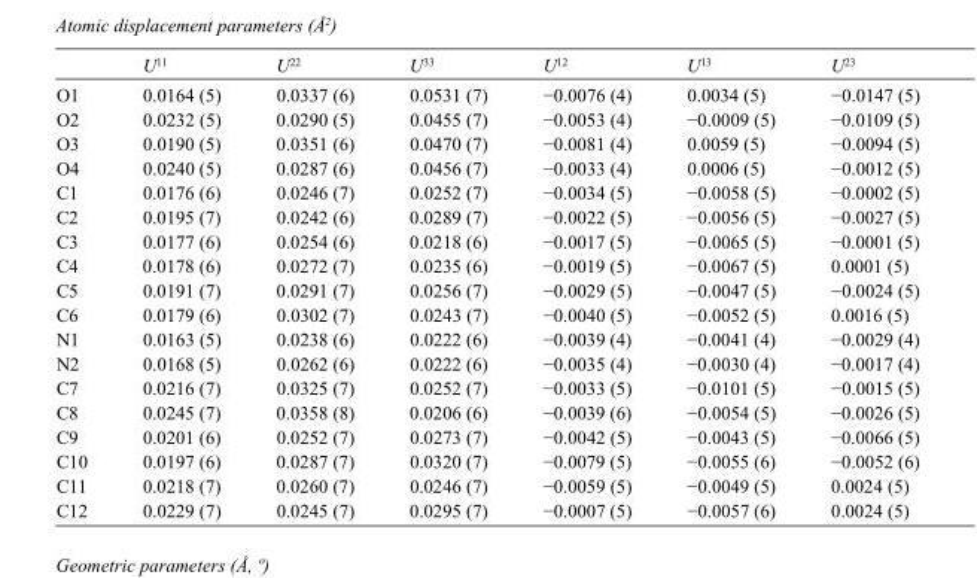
<table><thead><tr><td></td><td>U<sup>11</sup></td><td>U<sup>22</sup></td><td>U<sup>33</sup></td><td>U<sup>12</sup></td><td>U<sup>13</sup></td><td>U<sup>23</sup></td></tr></thead><tbody><tr><td>O1</td><td>0.0164 (5)</td><td>0.0337 (6)</td><td>0.0531 (7)</td><td>−0.0076 (4)</td><td>0.0034 (5)</td><td>−0.0147 (5)</td></tr><tr><td>O2</td><td>0.0232 (5)</td><td>0.0290 (5)</td><td>0.0455 (7)</td><td>−0.0053 (4)</td><td>−0.0009 (5)</td><td>−0.0109 (5)</td></tr><tr><td>O3</td><td>0.0190 (5)</td><td>0.0351 (6)</td><td>0.0470 (7)</td><td>−0.0081 (4)</td><td>0.0059 (5)</td><td>−0.0094 (5)</td></tr><tr><td>O4</td><td>0.0240 (5)</td><td>0.0287 (6)</td><td>0.0456 (7)</td><td>−0.0033 (4)</td><td>0.0006 (5)</td><td>−0.0012 (5)</td></tr><tr><td>C1</td><td>0.0176 (6)</td><td>0.0246 (7)</td><td>0.0252 (7)</td><td>−0.0034 (5)</td><td>−0.0058 (5)</td><td>−0.0002 (5)</td></tr><tr><td>C2</td><td>0.0195 (7)</td><td>0.0242 (6)</td><td>0.0289 (7)</td><td>−0.0022 (5)</td><td>−0.0056 (5)</td><td>−0.0027 (5)</td></tr><tr><td>C3</td><td>0.0177 (6)</td><td>0.0254 (6)</td><td>0.0218 (6)</td><td>−0.0017 (5)</td><td>−0.0065 (5)</td><td>−0.0001 (5)</td></tr><tr><td>C4</td><td>0.0178 (6)</td><td>0.0272 (7)</td><td>0.0235 (6)</td><td>−0.0019 (5)</td><td>−0.0067 (5)</td><td>0.0001 (5)</td></tr><tr><td>C5</td><td>0.0191 (7)</td><td>0.0291 (7)</td><td>0.0256 (7)</td><td>−0.0029 (5)</td><td>−0.0047 (5)</td><td>−0.0024 (5)</td></tr><tr><td>C6</td><td>0.0179 (6)</td><td>0.0302 (7)</td><td>0.0243 (7)</td><td>−0.0040 (5)</td><td>−0.0052 (5)</td><td>0.0016 (5)</td></tr><tr><td>N1</td><td>0.0163 (5)</td><td>0.0238 (6)</td><td>0.0222 (6)</td><td>−0.0039 (4)</td><td>−0.0041 (4)</td><td>−0.0029 (4)</td></tr><tr><td>N2</td><td>0.0168 (5)</td><td>0.0262 (6)</td><td>0.0222 (6)</td><td>−0.0035 (4)</td><td>−0.0030 (4)</td><td>−0.0017 (4)</td></tr><tr><td>C7</td><td>0.0216 (7)</td><td>0.0325 (7)</td><td>0.0252 (7)</td><td>−0.0033 (5)</td><td>−0.0101 (5)</td><td>−0.0015 (5)</td></tr><tr><td>C8</td><td>0.0245 (7)</td><td>0.0358 (8)</td><td>0.0206 (6)</td><td>−0.0039 (6)</td><td>−0.0054 (5)</td><td>−0.0026 (5)</td></tr><tr><td>C9</td><td>0.0201 (6)</td><td>0.0252 (7)</td><td>0.0273 (7)</td><td>−0.0042 (5)</td><td>−0.0043 (5)</td><td>−0.0066 (5)</td></tr><tr><td>C10</td><td>0.0197 (6)</td><td>0.0287 (7)</td><td>0.0320 (7)</td><td>−0.0079 (5)</td><td>−0.0055 (6)</td><td>−0.0052 (6)</td></tr><tr><td>C11</td><td>0.0218 (7)</td><td>0.0260 (7)</td><td>0.0246 (7)</td><td>−0.0059 (5)</td><td>−0.0049 (5)</td><td>0.0024 (5)</td></tr><tr><td>C12</td><td>0.0229 (7)</td><td>0.0245 (7)</td><td>0.0295 (7)</td><td>−0.0007 (5)</td><td>−0.0057 (6)</td><td>0.0024 (5)</td></tr></tbody></table>